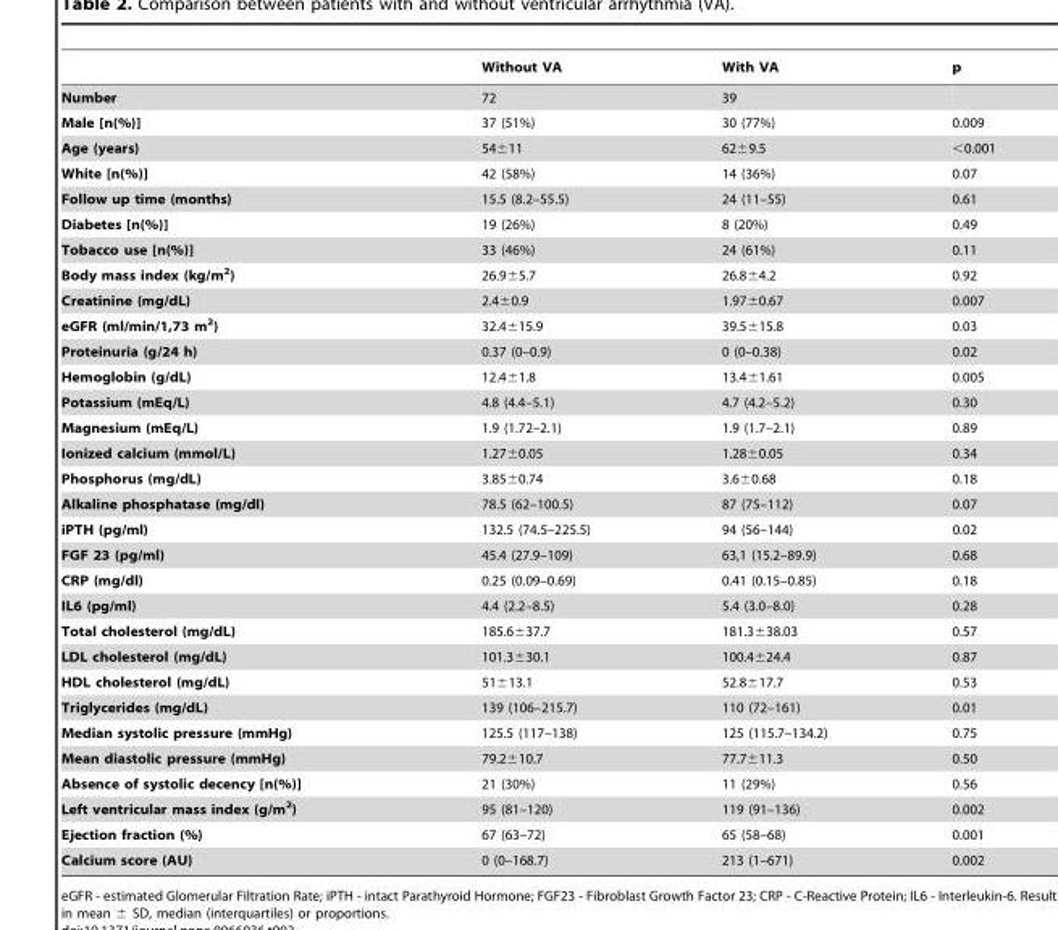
<table><thead><tr><td></td><td>Without VA</td><td>With VA</td><td>p</td></tr></thead><tbody><tr><td>Number</td><td>72</td><td>39</td><td></td></tr><tr><td>Male [n(%)]</td><td>37 (51%)</td><td>30 (77%)</td><td>0.009</td></tr><tr><td>Age (years)</td><td>54±11</td><td>62±9.5</td><td>&lt;0.001</td></tr><tr><td>White [n(%)]</td><td>42 (58%)</td><td>14 (36%)</td><td>0.07</td></tr><tr><td>Follow up time (months)</td><td>15.5 (8.2–55.5)</td><td>24 (11–55)</td><td>0.61</td></tr><tr><td>Diabetes [n(%)]</td><td>19 (26%)</td><td>8 (20%)</td><td>0.49</td></tr><tr><td>Tobacco use [n(%)]</td><td>33 (46%)</td><td>24 (61%)</td><td>0.11</td></tr><tr><td>Body mass index (kg/m<sup>2</sup>)</td><td>26.9±5.7</td><td>26.8±4.2</td><td>0.92</td></tr><tr><td>Creatinine (mg/dL)</td><td>2.4±0.9</td><td>1.97±0.67</td><td>0.007</td></tr><tr><td>eGFR (ml/min/1,73 m<sup>2</sup>)</td><td>32.4±15.9</td><td>39.5±15.8</td><td>0.03</td></tr><tr><td>Proteinuria (g/24 h)</td><td>0.37 (0–0.9)</td><td>0 (0–0.38)</td><td>0.02</td></tr><tr><td>Hemoglobin (g/dL)</td><td>12.4±1.8</td><td>13.4±1.61</td><td>0.005</td></tr><tr><td>Potassium (mEq/L)</td><td>4.8 (4.4–5.1)</td><td>4.7 (4.2–5.2)</td><td>0.30</td></tr><tr><td>Magnesium (mEq/L)</td><td>1.9 (1.72–2.1)</td><td>1.9 (1.7–2.1)</td><td>0.89</td></tr><tr><td>Ionized calcium (mmol/L)</td><td>1.27±0.05</td><td>1.28±0.05</td><td>0.34</td></tr><tr><td>Phosphorus (mg/dL)</td><td>3.85±0.74</td><td>3.6±0.68</td><td>0.18</td></tr><tr><td>Alkaline phosphatase (mg/dl)</td><td>78.5 (62–100.5)</td><td>87 (75–112)</td><td>0.07</td></tr><tr><td>iPTH (pg/ml)</td><td>132.5 (74.5–225.5)</td><td>94 (56–144)</td><td>0.02</td></tr><tr><td>FGF 23 (pg/ml)</td><td>45.4 (27.9–109)</td><td>63,1 (15.2–89.9)</td><td>0.68</td></tr><tr><td>CRP (mg/dl)</td><td>0.25 (0.09–0.69)</td><td>0.41 (0.15–0.85)</td><td>0.18</td></tr><tr><td>IL6 (pg/ml)</td><td>4.4 (2.2–8.5)</td><td>5.4 (3.0–8.0)</td><td>0.28</td></tr><tr><td>Total cholesterol (mg/dL)</td><td>185.6±37.7</td><td>181.3±38.03</td><td>0.57</td></tr><tr><td>LDL cholesterol (mg/dL)</td><td>101.3±30.1</td><td>100.4±24.4</td><td>0.87</td></tr><tr><td>HDL cholesterol (mg/dL)</td><td>51±13.1</td><td>52.8±17.7</td><td>0.53</td></tr><tr><td>Triglycerides (mg/dL)</td><td>139 (106–215.7)</td><td>110 (72–161)</td><td>0.01</td></tr><tr><td>Median systolic pressure (mmHg)</td><td>125.5 (117–138)</td><td>125 (115.7–134.2)</td><td>0.75</td></tr><tr><td>Mean diastolic pressure (mmHg)</td><td>79.2±10.7</td><td>77.7±11.3</td><td>0.50</td></tr><tr><td>Absence of systolic decency [n(%)]</td><td>21 (30%)</td><td>11 (29%)</td><td>0.56</td></tr><tr><td>Left ventricular mass index (g/m<sup>2</sup>)</td><td>95 (81–120)</td><td>119 (91–136)</td><td>0.002</td></tr><tr><td>Ejection fraction (%)</td><td>67 (63–72)</td><td>65 (58–68)</td><td>0.001</td></tr><tr><td>Calcium score (AU)</td><td>0 (0–168.7)</td><td>213 (1–671)</td><td>0.002</td></tr></tbody></table>